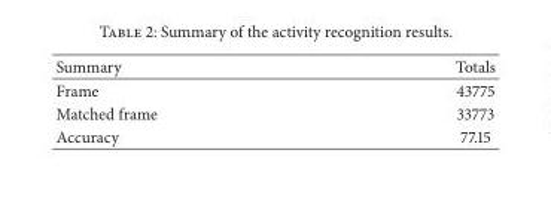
<table><thead><tr><td>Summary</td><td>Totals</td></tr></thead><tbody><tr><td>Frame</td><td>43775</td></tr><tr><td>Matched frame</td><td>33773</td></tr><tr><td>Accuracy</td><td>77.15</td></tr></tbody></table>